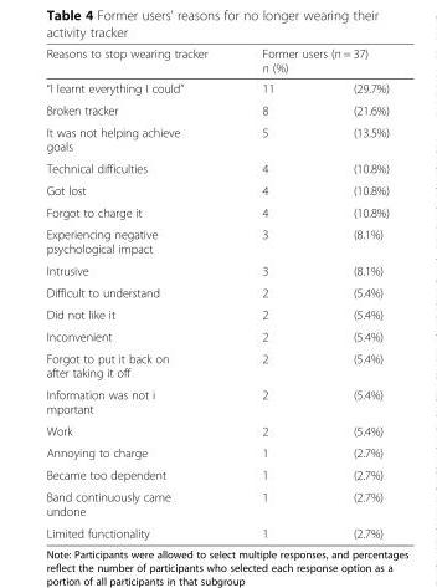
<table><thead><tr><td rowspan="2">Reasons to stop wearing tracker “I learnt everything I could”</td><td colspan="2">Former users (n = 37) n (%)</td></tr><tr><td>11</td><td>(29.7%)</td></tr></thead><tbody><tr><td>Broken tracker</td><td>8</td><td>(21.6%)</td></tr><tr><td>It was not helping achieve goals</td><td>5</td><td>(13.5%)</td></tr><tr><td>Technical difficulties</td><td>4</td><td>(10.8%)</td></tr><tr><td>Got lost</td><td>4</td><td>(10.8%)</td></tr><tr><td>Forgot to charge it</td><td>4</td><td>(10.8%)</td></tr><tr><td>Experiencing negative psychological impact</td><td>3</td><td>(8.1%)</td></tr><tr><td>Intrusive</td><td>3</td><td>(8.1%)</td></tr><tr><td>Difficult to understand</td><td>2</td><td>(5.4%)</td></tr><tr><td>Did not like it</td><td>2</td><td>(5.4%)</td></tr><tr><td>Inconvenient</td><td>2</td><td>(5.4%)</td></tr><tr><td>Forgot to put it back on after taking it off</td><td>2</td><td>(5.4%)</td></tr><tr><td>Information was not i mportant</td><td>2</td><td>(5.4%)</td></tr><tr><td>Work</td><td>2</td><td>(5.4%)</td></tr><tr><td>Annoying to charge</td><td>1</td><td>(2.7%)</td></tr><tr><td>Became too dependent</td><td>1</td><td>(2.7%)</td></tr><tr><td>Band continuously came undone</td><td>1</td><td>(2.7%)</td></tr><tr><td>Limited functionality</td><td>1</td><td>(2.7%)</td></tr></tbody></table>